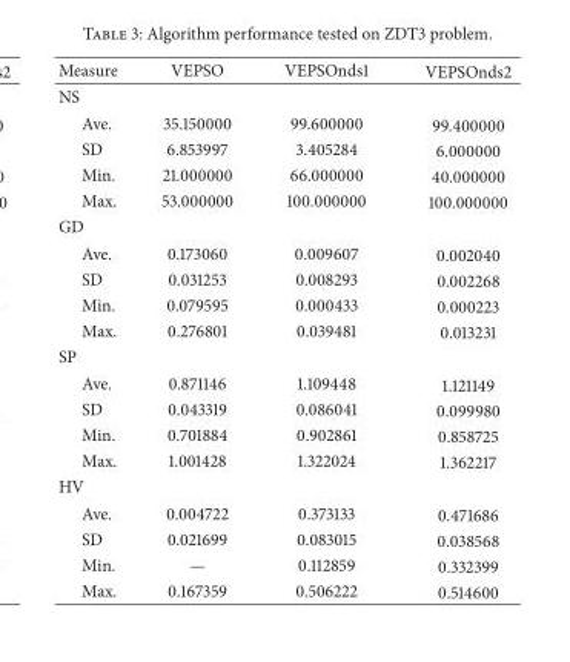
<table><thead><tr><td>Measure</td><td>VEPSO</td><td>VEPSOnds1</td><td>VEPSOnds2</td></tr></thead><tbody><tr><td colspan="4">NS</td></tr><tr><td>Ave.</td><td>35.150000</td><td>99.600000</td><td>99.400000</td></tr><tr><td>SD</td><td>6.853997</td><td>3.405284</td><td>6.000000</td></tr><tr><td>Min.</td><td>21.000000</td><td>66.000000</td><td>40.000000</td></tr><tr><td>Max.</td><td>53.000000</td><td>100.000000</td><td>100.000000</td></tr><tr><td colspan="4">GD</td></tr><tr><td>Ave.</td><td>0.173060</td><td>0.009607</td><td>0.002040</td></tr><tr><td>SD</td><td>0.031253</td><td>0.008293</td><td>0.002268</td></tr><tr><td>Min.</td><td>0.079595</td><td>0.000433</td><td>0.000223</td></tr><tr><td>Max.</td><td>0.276801</td><td>0.039481</td><td>0.013231</td></tr><tr><td colspan="4">SP</td></tr><tr><td>Ave.</td><td>0.871146</td><td>1.109448</td><td>1.121149</td></tr><tr><td>SD</td><td>0.043319</td><td>0.086041</td><td>0.099980</td></tr><tr><td>Min.</td><td>0.701884</td><td>0.902861</td><td>0.858725</td></tr><tr><td>Max.</td><td>1.001428</td><td>1.322024</td><td>1.362217</td></tr><tr><td colspan="4">HV</td></tr><tr><td>Ave.</td><td>0.004722</td><td>0.373133</td><td>0.471686</td></tr><tr><td>SD</td><td>0.021699</td><td>0.083015</td><td>0.038568</td></tr><tr><td>Min.</td><td>—</td><td>0.112859</td><td>0.332399</td></tr><tr><td>Max.</td><td>0.167359</td><td>0.506222</td><td>0.514600</td></tr></tbody></table>